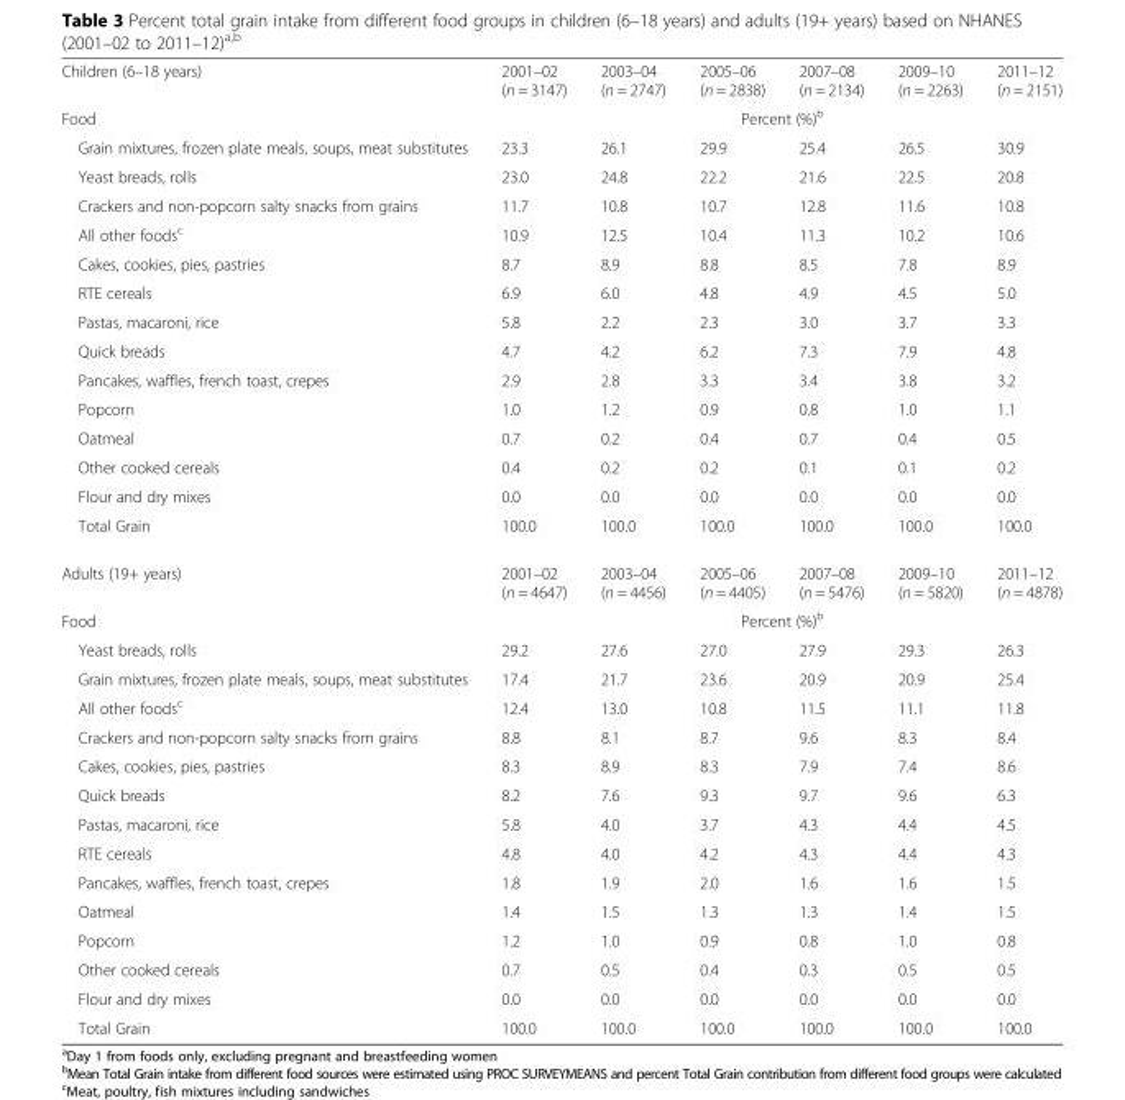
<table><tbody><tr><td>Children (6–18 years)</td><td>2001–02 (n = 3147)</td><td>2003–04 (n = 2747)</td><td>2005–06 (n = 2838)</td><td>2007–08 (n = 2134)</td><td>2009–10 (n = 2263)</td><td>2011–12 (n = 2151)</td></tr><tr><td>Food</td><td colspan="6">Percent (%)<sup>b</sup></td></tr><tr><td>Grain mixtures, frozen plate meals, soups, meat substitutes</td><td>23.3</td><td>26.1</td><td>29.9</td><td>25.4</td><td>26.5</td><td>30.9</td></tr><tr><td>Yeast breads, rolls</td><td>23.0</td><td>24.8</td><td>22.2</td><td>21.6</td><td>22.5</td><td>20.8</td></tr><tr><td>Crackers and non-popcorn salty snacks from grains</td><td>11.7</td><td>10.8</td><td>10.7</td><td>12.8</td><td>11.6</td><td>10.8</td></tr><tr><td>All other foods<sup>c</sup></td><td>10.9</td><td>12.5</td><td>10.4</td><td>11.3</td><td>10.2</td><td>10.6</td></tr><tr><td>Cakes, cookies, pies, pastries</td><td>8.7</td><td>8.9</td><td>8.8</td><td>8.5</td><td>7.8</td><td>8.9</td></tr><tr><td>RTE cereals</td><td>6.9</td><td>6.0</td><td>4.8</td><td>4.9</td><td>4.5</td><td>5.0</td></tr><tr><td>Pastas, macaroni, rice</td><td>5.8</td><td>2.2</td><td>2.3</td><td>3.0</td><td>3.7</td><td>3.3</td></tr><tr><td>Quick breads</td><td>4.7</td><td>4.2</td><td>6.2</td><td>7.3</td><td>7.9</td><td>4.8</td></tr><tr><td>Pancakes, waffles, french toast, crepes</td><td>2.9</td><td>2.8</td><td>3.3</td><td>3.4</td><td>3.8</td><td>3.2</td></tr><tr><td>Popcorn</td><td>1.0</td><td>1.2</td><td>0.9</td><td>0.8</td><td>1.0</td><td>1.1</td></tr><tr><td>Oatmeal</td><td>0.7</td><td>0.2</td><td>0.4</td><td>0.7</td><td>0.4</td><td>0.5</td></tr><tr><td>Other cooked cereals</td><td>0.4</td><td>0.2</td><td>0.2</td><td>0.1</td><td>0.1</td><td>0.2</td></tr><tr><td>Flour and dry mixes</td><td>0.0</td><td>0.0</td><td>0.0</td><td>0.0</td><td>0.0</td><td>0.0</td></tr><tr><td>Total Grain</td><td>100.0</td><td>100.0</td><td>100.0</td><td>100.0</td><td>100.0</td><td>100.0</td></tr><tr><td>Adults (19+ years)</td><td>2001–02 (n = 4647)</td><td>2003–04 (n = 4456)</td><td>2005–06 (n = 4405)</td><td>2007–08 (n = 5476)</td><td>2009–10 (n = 5820)</td><td>2011–12 (n = 4878)</td></tr><tr><td>Food</td><td colspan="6">Percent (%)<sup>b</sup></td></tr><tr><td>Yeast breads, rolls</td><td>29.2</td><td>27.6</td><td>27.0</td><td>27.9</td><td>29.3</td><td>26.3</td></tr><tr><td>Grain mixtures, frozen plate meals, soups, meat substitutes</td><td>17.4</td><td>21.7</td><td>23.6</td><td>20.9</td><td>20.9</td><td>25.4</td></tr><tr><td>All other foods<sup>c</sup></td><td>12.4</td><td>13.0</td><td>10.8</td><td>11.5</td><td>11.1</td><td>11.8</td></tr><tr><td>Crackers and non-popcorn salty snacks from grains</td><td>8.8</td><td>8.1</td><td>8.7</td><td>9.6</td><td>8.3</td><td>8.4</td></tr><tr><td>Cakes, cookies, pies, pastries</td><td>8.3</td><td>8.9</td><td>8.3</td><td>7.9</td><td>7.4</td><td>8.6</td></tr><tr><td>Quick breads</td><td>8.2</td><td>7.6</td><td>9.3</td><td>9.7</td><td>9.6</td><td>6.3</td></tr><tr><td>Pastas, macaroni, rice</td><td>5.8</td><td>4.0</td><td>3.7</td><td>4.3</td><td>4.4</td><td>4.5</td></tr><tr><td>RTE cereals</td><td>4.8</td><td>4.0</td><td>4.2</td><td>4.3</td><td>4.4</td><td>4.3</td></tr><tr><td>Pancakes, waffles, french toast, crepes</td><td>1.8</td><td>1.9</td><td>2.0</td><td>1.6</td><td>1.6</td><td>1.5</td></tr><tr><td>Oatmeal</td><td>1.4</td><td>1.5</td><td>1.3</td><td>1.3</td><td>1.4</td><td>1.5</td></tr><tr><td>Popcorn</td><td>1.2</td><td>1.0</td><td>0.9</td><td>0.8</td><td>1.0</td><td>0.8</td></tr><tr><td>Other cooked cereals</td><td>0.7</td><td>0.5</td><td>0.4</td><td>0.3</td><td>0.5</td><td>0.5</td></tr><tr><td>Flour and dry mixes</td><td>0.0</td><td>0.0</td><td>0.0</td><td>0.0</td><td>0.0</td><td>0.0</td></tr><tr><td>Total Grain</td><td>100.0</td><td>100.0</td><td>100.0</td><td>100.0</td><td>100.0</td><td>100.0</td></tr></tbody></table>